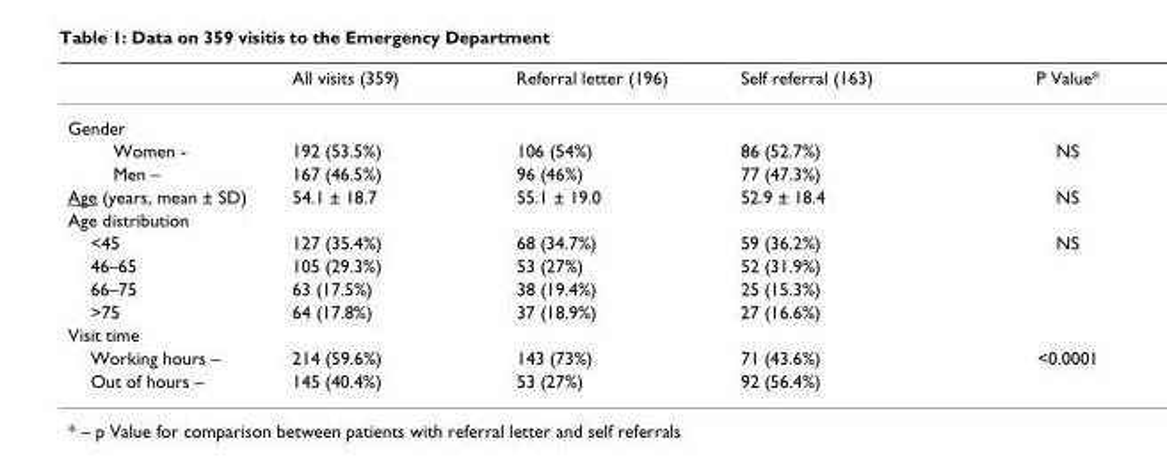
<table><thead><tr><td></td><td>All visits (359)</td><td>Referral letter (196)</td><td>Self referral (163)</td><td>P Value*</td></tr></thead><tbody><tr><td colspan="5">Gender</td></tr><tr><td>Women -</td><td>192 (53.5%)</td><td>106 (54%)</td><td>86 (52.7%)</td><td>NS</td></tr><tr><td>Men –</td><td>167 (46.5%)</td><td>96 (46%)</td><td>77 (47.3%)</td><td></td></tr><tr><td>Age (years, mean ± SD)</td><td>54.1 ± 18.7</td><td>55.1 ± 19.0</td><td>52.9 ± 18.4</td><td>NS</td></tr><tr><td colspan="5">Age distribution</td></tr><tr><td>&lt;45</td><td>127 (35.4%)</td><td>68 (34.7%)</td><td>59 (36.2%)</td><td>NS</td></tr><tr><td>46–65</td><td>105 (29.3%)</td><td>53 (27%)</td><td>52 (31.9%)</td><td></td></tr><tr><td>66–75</td><td>63 (17.5%)</td><td>38 (19.4%)</td><td>25 (15.3%)</td><td></td></tr><tr><td>&gt;75</td><td>64 (17.8%)</td><td>37 (18.9%)</td><td>27 (16.6%)</td><td></td></tr><tr><td colspan="5">Visit time</td></tr><tr><td>Working hours –</td><td>214 (59.6%)</td><td>143 (73%)</td><td>71 (43.6%)</td><td>&lt;0.0001</td></tr><tr><td>Out of hours –</td><td>145 (40.4%)</td><td>53 (27%)</td><td>92 (56.4%)</td><td></td></tr></tbody></table>